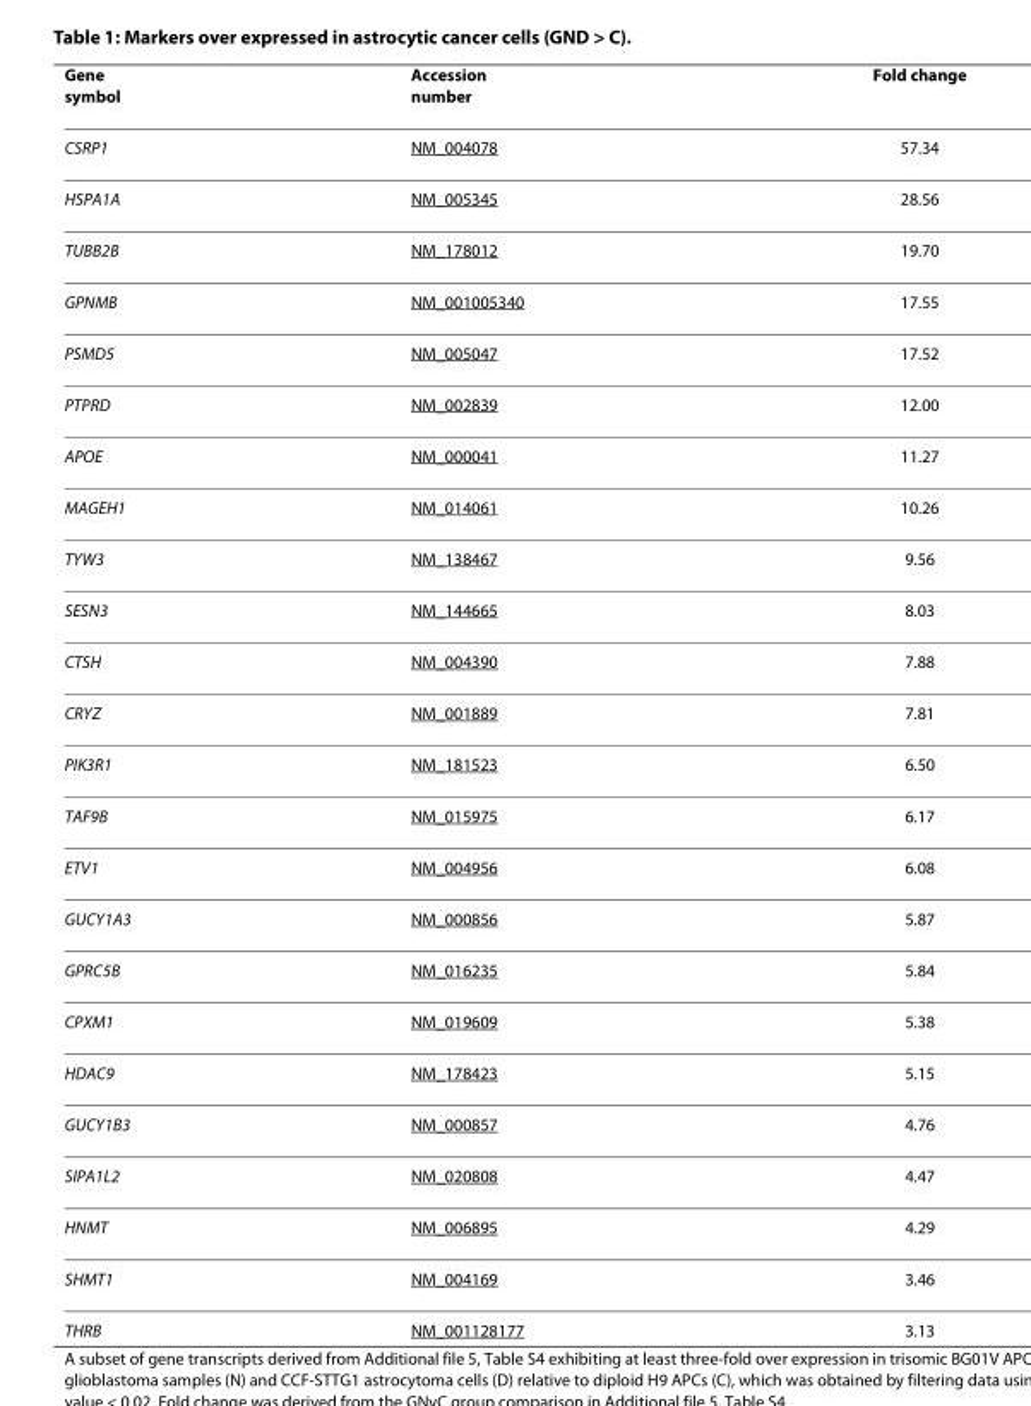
<table><thead><tr><td>Gene symbol</td><td>Accession number</td><td>Fold change</td></tr></thead><tbody><tr><td>CSRP1</td><td>NM_004078</td><td>57.34</td></tr><tr><td>HSPA1A</td><td>NM_005345</td><td>28.56</td></tr><tr><td>TUBB2B</td><td>NM_178012</td><td>19.70</td></tr><tr><td>GPNMB</td><td>NM_001005340</td><td>17.55</td></tr><tr><td>PSMD5</td><td>NM_005047</td><td>17.52</td></tr><tr><td>PTPRD</td><td>NM_002839</td><td>12.00</td></tr><tr><td>APOE</td><td>NM_000041</td><td>11.27</td></tr><tr><td>MAGEH1</td><td>NM_014061</td><td>10.26</td></tr><tr><td>TYW3</td><td>NM_138467</td><td>9.56</td></tr><tr><td>SESN3</td><td>NM_144665</td><td>8.03</td></tr><tr><td>CTSH</td><td>NM_004390</td><td>7.88</td></tr><tr><td>CRYZ</td><td>NM_001889</td><td>7.81</td></tr><tr><td>PIK3R1</td><td>NM_181523</td><td>6.50</td></tr><tr><td>TAF9B</td><td>NM_015975</td><td>6.17</td></tr><tr><td>ETV1</td><td>NM_004956</td><td>6.08</td></tr><tr><td>GUCY1A3</td><td>NM_000856</td><td>5.87</td></tr><tr><td>GPRC5B</td><td>NM_016235</td><td>5.84</td></tr><tr><td>CPXM1</td><td>NM_019609</td><td>5.38</td></tr><tr><td>HDAC9</td><td>NM_178423</td><td>5.15</td></tr><tr><td>GUCY1B3</td><td>NM_000857</td><td>4.76</td></tr><tr><td>SIPA1L2</td><td>NM_020808</td><td>4.47</td></tr><tr><td>HNMT</td><td>NM_006895</td><td>4.29</td></tr><tr><td>SHMT1</td><td>NM_004169</td><td>3.46</td></tr><tr><td>THRB</td><td>NM_001128177</td><td>3.13</td></tr></tbody></table>